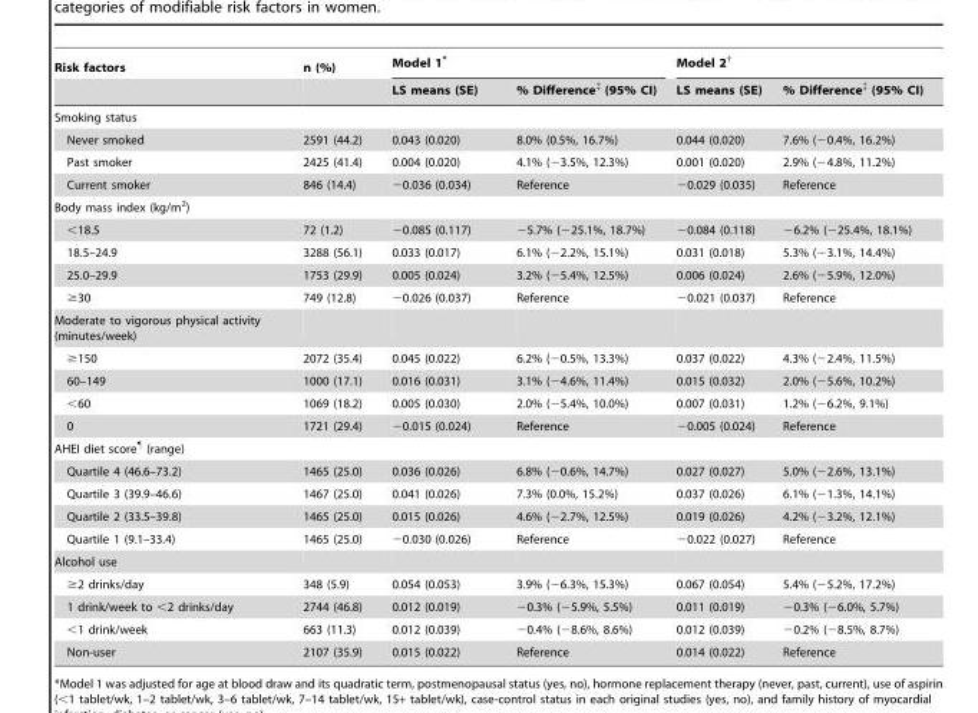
<table><thead><tr><td rowspan="2">Risk factors</td><td rowspan="2">n (%)</td><td colspan="2">Model 1*</td><td colspan="2">Model 2†</td></tr><tr><td>LS means (SE)</td><td>% Difference‡ (95% CI)</td><td>LS means (SE)</td><td>% Difference‡ (95% CI)</td></tr></thead><tbody><tr><td colspan="6">Smoking status</td></tr><tr><td>Never smoked</td><td>2591 (44.2)</td><td>0.043 (0.020)</td><td>8.0% (0.5%, 16.7%)</td><td>0.044 (0.020)</td><td>7.6% (−0.4%, 16.2%)</td></tr><tr><td>Past smoker</td><td>2425 (41.4)</td><td>0.004 (0.020)</td><td>4.1% (−3.5%, 12.3%)</td><td>0.001 (0.020)</td><td>2.9% (−4.8%, 11.2%)</td></tr><tr><td>Current smoker</td><td>846 (14.4)</td><td>−0.036 (0.034)</td><td>Reference</td><td>−0.029 (0.035)</td><td>Reference</td></tr><tr><td colspan="6">Body mass index (kg/m<sup>2</sup>)</td></tr><tr><td>&lt;18.5</td><td>72 (1.2)</td><td>−0.085 (0.117)</td><td>−5.7% (−25.1%, 18.7%)</td><td>−0.084 (0.118)</td><td>−6.2% (−25.4%, 18.1%)</td></tr><tr><td>18.5–24.9</td><td>3288 (56.1)</td><td>0.033 (0.017)</td><td>6.1% (−2.2%, 15.1%)</td><td>0.031 (0.018)</td><td>5.3% (−3.1%, 14.4%)</td></tr><tr><td>25.0–29.9</td><td>1753 (29.9)</td><td>0.005 (0.024)</td><td>3.2% (−5.4%, 12.5%)</td><td>0.006 (0.024)</td><td>2.6% (−5.9%, 12.0%)</td></tr><tr><td>≥30</td><td>749 (12.8)</td><td>−0.026 (0.037)</td><td>Reference</td><td>−0.021 (0.037)</td><td>Reference</td></tr><tr><td colspan="6">Moderate to vigorous physical activity (minutes/week)</td></tr><tr><td>≥150</td><td>2072 (35.4)</td><td>0.045 (0.022)</td><td>6.2% (−0.5%, 13.3%)</td><td>0.037 (0.022)</td><td>4.3% (−2.4%, 11.5%)</td></tr><tr><td>60–149</td><td>1000 (17.1)</td><td>0.016 (0.031)</td><td>3.1% (−4.6%, 11.4%)</td><td>0.015 (0.032)</td><td>2.0% (−5.6%, 10.2%)</td></tr><tr><td>&lt;60</td><td>1069 (18.2)</td><td>0.005 (0.030)</td><td>2.0% (−5.4%, 10.0%)</td><td>0.007 (0.031)</td><td>1.2% (−6.2%, 9.1%)</td></tr><tr><td>0</td><td>1721 (29.4)</td><td>−0.015 (0.024)</td><td>Reference</td><td>−0.005 (0.024)</td><td>Reference</td></tr><tr><td colspan="6">AHEI diet score¶ (range)</td></tr><tr><td>Quartile 4 (46.6–73.2)</td><td>1465 (25.0)</td><td>0.036 (0.026)</td><td>6.8% (−0.6%, 14.7%)</td><td>0.027 (0.027)</td><td>5.0% (−2.6%, 13.1%)</td></tr><tr><td>Quartile 3 (39.9–46.6)</td><td>1467 (25.0)</td><td>0.041 (0.026)</td><td>7.3% (0.0%, 15.2%)</td><td>0.037 (0.026)</td><td>6.1% (−1.3%, 14.1%)</td></tr><tr><td>Quartile 2 (33.5–39.8)</td><td>1465 (25.0)</td><td>0.015 (0.026)</td><td>4.6% (−2.7%, 12.5%)</td><td>0.019 (0.026)</td><td>4.2% (−3.2%, 12.1%)</td></tr><tr><td>Quartile 1 (9.1–33.4)</td><td>1465 (25.0)</td><td>−0.030 (0.026)</td><td>Reference</td><td>−0.022 (0.027)</td><td>Reference</td></tr><tr><td colspan="6">Alcohol use</td></tr><tr><td>≥2 drinks/day</td><td>348 (5.9)</td><td>0.054 (0.053)</td><td>3.9% (−6.3%, 15.3%)</td><td>0.067 (0.054)</td><td>5.4% (−5.2%, 17.2%)</td></tr><tr><td>1 drink/week to &lt;2 drinks/day</td><td>2744 (46.8)</td><td>0.012 (0.019)</td><td>−0.3% (−5.9%, 5.5%)</td><td>0.011 (0.019)</td><td>−0.3% (−6.0%, 5.7%)</td></tr><tr><td>&lt;1 drink/week</td><td>663 (11.3)</td><td>0.012 (0.039)</td><td>−0.4% (−8.6%, 8.6%)</td><td>0.012 (0.039)</td><td>−0.2% (−8.5%, 8.7%)</td></tr><tr><td>Non-user</td><td>2107 (35.9)</td><td>0.015 (0.022)</td><td>Reference</td><td>0.014 (0.022)</td><td>Reference</td></tr></tbody></table>